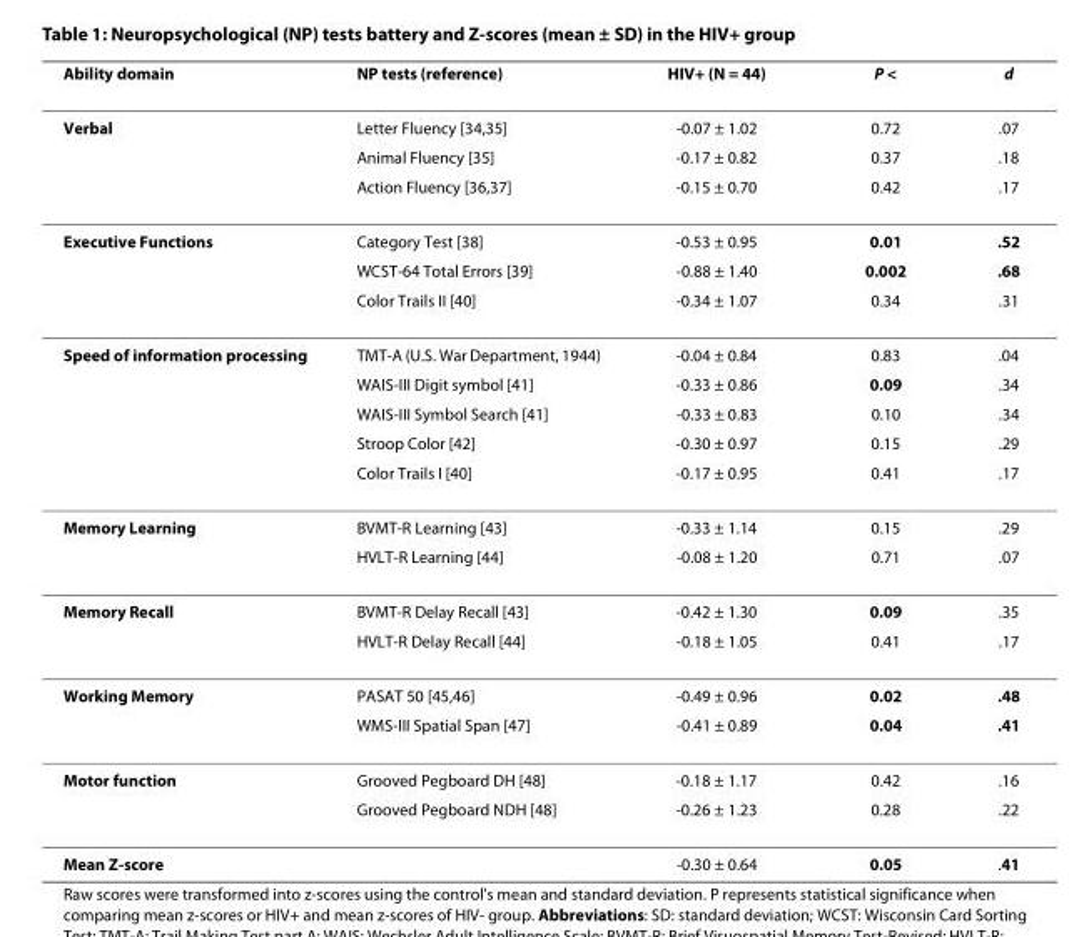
<table><thead><tr><td>Ability domain</td><td>NP tests (reference)</td><td>HIV+ (N = 44)</td><td>P &lt;</td><td>d</td></tr></thead><tbody><tr><td rowspan="3">Verbal</td><td>Letter Fluency [34,35]</td><td>-0.07 ± 1.02</td><td>0.72</td><td>.07</td></tr><tr><td>Animal Fluency [35]</td><td>-0.17 ± 0.82</td><td>0.37</td><td>.18</td></tr><tr><td>Action Fluency [36,37]</td><td>-0.15 ± 0.70</td><td>0.42</td><td>.17</td></tr><tr><td rowspan="3">Executive Functions</td><td>Category Test [38]</td><td>-0.53 ± 0.95</td><td>0.01</td><td>.52</td></tr><tr><td>WCST-64 Total Errors [39]</td><td>-0.88 ± 1.40</td><td>0.002</td><td>.68</td></tr><tr><td>Color Trails II [40]</td><td>-0.34 ± 1.07</td><td>0.34</td><td>.31</td></tr><tr><td rowspan="5">Speed of information processing</td><td>TMT-A (U.S. War Department, 1944)</td><td>-0.04 ± 0.84</td><td>0.83</td><td>.04</td></tr><tr><td>WAIS-III Digit symbol [41]</td><td>-0.33 ± 0.86</td><td>0.09</td><td>.34</td></tr><tr><td>WAIS-III Symbol Search [41]</td><td>-0.33 ± 0.83</td><td>0.10</td><td>.34</td></tr><tr><td>Stroop Color [42]</td><td>-0.30 ± 0.97</td><td>0.15</td><td>.29</td></tr><tr><td>Color Trails I [40]</td><td>-0.17 ± 0.95</td><td>0.41</td><td>.17</td></tr><tr><td rowspan="2">Memory Learning</td><td>BVMT-R Learning [43]</td><td>-0.33 ± 1.14</td><td>0.15</td><td>.29</td></tr><tr><td>HVLT-R Learning [44]</td><td>-0.08 ± 1.20</td><td>0.71</td><td>.07</td></tr><tr><td rowspan="2">Memory Recall</td><td>BVMT-R Delay Recall [43]</td><td>-0.42 ± 1.30</td><td>0.09</td><td>.35</td></tr><tr><td>HVLT-R Delay Recall [44]</td><td>-0.18 ± 1.05</td><td>0.41</td><td>.17</td></tr><tr><td rowspan="2">Working Memory</td><td>PASAT 50 [45,46]</td><td>-0.49 ± 0.96</td><td>0.02</td><td>.48</td></tr><tr><td>WMS-III Spatial Span [47]</td><td>-0.41 ± 0.89</td><td>0.04</td><td>.41</td></tr><tr><td rowspan="2">Motor function</td><td>Grooved Pegboard DH [48]</td><td>-0.18 ± 1.17</td><td>0.42</td><td>.16</td></tr><tr><td>Grooved Pegboard NDH [48]</td><td>-0.26 ± 1.23</td><td>0.28</td><td>.22</td></tr><tr><td>Mean Z-score</td><td></td><td>-0.30 ± 0.64</td><td>0.05</td><td>.41</td></tr></tbody></table>